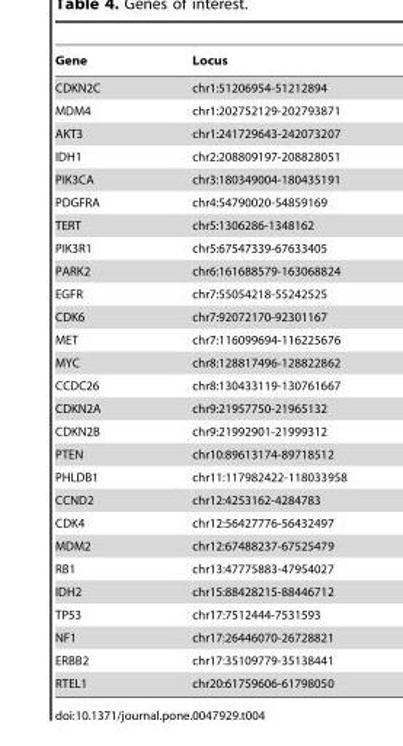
<table><thead><tr><td>Gene</td><td>Locus</td></tr></thead><tbody><tr><td>CDKN2C</td><td>chr1:51206954-51212894</td></tr><tr><td>MDM4</td><td>chr1:202752129-202793871</td></tr><tr><td>AKT3</td><td>chr1:241729643-242073207</td></tr><tr><td>IDH1</td><td>chr2:208809197-208828051</td></tr><tr><td>PIK3CA</td><td>chr3:180349004-180435191</td></tr><tr><td>PDGFRA</td><td>chr4:54790020-54859169</td></tr><tr><td>TERT</td><td>chr5:1306286-1348162</td></tr><tr><td>PIK3R1</td><td>chr5:67547339-67633405</td></tr><tr><td>PARK2</td><td>chr6:161688579-163068824</td></tr><tr><td>EGFR</td><td>chr7:55054218-55242525</td></tr><tr><td>CDK6</td><td>chr7:92072170-92301167</td></tr><tr><td>MET</td><td>chr7:116099694-116225676</td></tr><tr><td>MYC</td><td>chr8:128817496-128822862</td></tr><tr><td>CCDC26</td><td>chr8:130433119-130761667</td></tr><tr><td>CDKN2A</td><td>chr9:21957750-21965132</td></tr><tr><td>CDKN2B</td><td>chr9:21992901-21999312</td></tr><tr><td>PTEN</td><td>chr10:89613174-89718512</td></tr><tr><td>PHLDB1</td><td>chr11:117982422-118033958</td></tr><tr><td>CCND2</td><td>chr12:4253162-4284783</td></tr><tr><td>CDK4</td><td>chr12:56427776-56432497</td></tr><tr><td>MDM2</td><td>chr12:67488237-67525479</td></tr><tr><td>RB1</td><td>chr13:47775883-47954027</td></tr><tr><td>IDH2</td><td>chr15:88428215-88446712</td></tr><tr><td>TP53</td><td>chr17:7512444-7531593</td></tr><tr><td>NF1</td><td>chr17:26446070-26728821</td></tr><tr><td>ERBB2</td><td>chr17:35109779-35138441</td></tr><tr><td>RTEL1</td><td>chr20:61759606-61798050</td></tr></tbody></table>